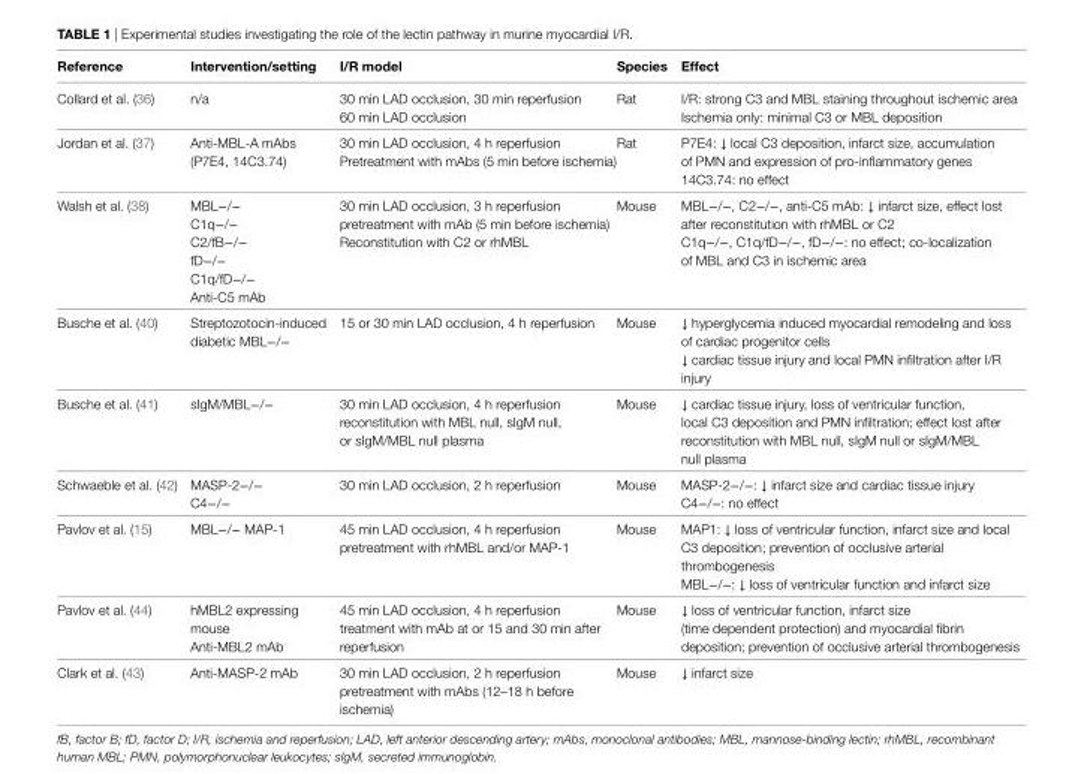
<table><thead><tr><td>Reference</td><td>intervention/setting</td><td>i/R model</td><td>Species</td><td>effect</td></tr></thead><tbody><tr><td>Collard et al. (36)</td><td>n/a</td><td>30 min LAD occlusion, 30 min reperfusion 60 min LAD occlusion</td><td>Rat</td><td>I/R: strong C3 and MBL staining throughout ischemic area Ischemia only: minimal C3 or MBL deposition</td></tr><tr><td>Jordan et al. (37)</td><td>Anti-MBL-A mAbs (P7E4, 14C3.74)</td><td>30 min LAD occlusion, 4 h reperfusion Pretreatment with mAbs (5 min before ischemia)</td><td>Rat</td><td>P7E4: ↓ local C3 deposition, infarct size, accumulation of PMN and expression of pro-inflammatory genes 14C3.74: no effect</td></tr><tr><td>Walsh et al. (38)</td><td>MBL−/− C1q−/− C2/fB−/− fD−/− C1q/fD−/− Anti-C5 mAb</td><td>30 min LAD occlusion, 3 h reperfusion pretreatment with mAb (5 min before ischemia) Reconstitution with C2 or rhMBL</td><td>Mouse</td><td>MBL−/−, C2−/−, anti-C5 mAb: ↓ infarct size, effect lost after reconstitution with rhMBL or C2 C1q−/−, C1q/fD−/−, fD−/−: no effect; co-localization of MBL and C3 in ischemic area</td></tr><tr><td>Busche et al. (40)</td><td>Streptozotocin-induced diabetic MBL−/−</td><td>15 or 30 min LAD occlusion, 4 h reperfusion</td><td>Mouse</td><td>↓ hyperglycemia induced myocardial remodeling and loss of cardiac progenitor cells ↓ cardiac tissue injury and local PMN infiltration after I/R injury</td></tr><tr><td>Busche et al. (41)</td><td>sIgM/MBL−/−</td><td>30 min LAD occlusion, 4 h reperfusion reconstitution with MBL null, sIgM null, or sIgM/MBL null plasma</td><td>Mouse</td><td>↓ cardiac tissue injury, loss of ventricular function, local C3 deposition and PMN infiltration; effect lost after reconstitution with MBL null, sIgM null or sIgM/MBL null plasma</td></tr><tr><td>Schwaeble et al. (42)</td><td>MASP-2−/− C4−/−</td><td>30 min LAD occlusion, 2 h reperfusion</td><td>Mouse</td><td>MASP-2−/−: ↓ infarct size and cardiac tissue injury C4−/−: no effect</td></tr><tr><td>Pavlov et al. (15)</td><td>MBL−/− MAP-1</td><td>45 min LAD occlusion, 4 h reperfusion pretreatment with rhMBL and/or MAP-1</td><td>Mouse</td><td>MAP1: ↓ loss of ventricular function, infarct size and local C3 deposition; prevention of occlusive arterial thrombogenesis MBL−/−: ↓ loss of ventricular function and infarct size</td></tr><tr><td>Pavlov et al. (44)</td><td>hMBL2 expressing mouse Anti-MBL2 mAb</td><td>45 min LAD occlusion, 4 h reperfusion treatment with mAb at or 15 and 30 min after reperfusion</td><td>Mouse</td><td>↓ loss of ventricular function, infarct size (time dependent protection) and myocardial fibrin deposition; prevention of occlusive arterial thrombogenesis</td></tr><tr><td>Clark et al. (43)</td><td>Anti-MASP-2 mAb</td><td>30 min LAD occlusion, 2 h reperfusion pretreatment with mAbs (12–18 h before ischemia)</td><td>Mouse</td><td>↓ infarct size</td></tr></tbody></table>